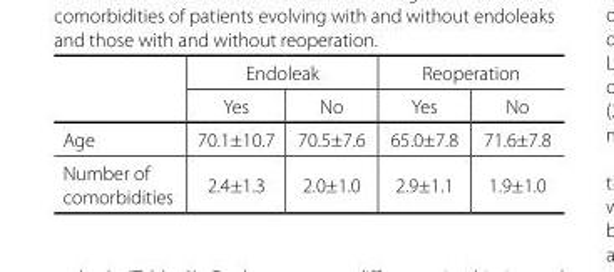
<table><thead><tr><td rowspan="2"></td><td colspan="2">Endoleak</td><td colspan="2">Reoperation</td></tr><tr><td>Yes</td><td>No</td><td>Yes</td><td>No</td></tr></thead><tbody><tr><td>Age</td><td>70.1±10.7</td><td>70.5±7.6</td><td>65.0±7.8</td><td>71.6±7.8</td></tr><tr><td>Number of comorbidities</td><td>2.4±1.3</td><td>2.0±1.0</td><td>2.9±1.1</td><td>1.9±1.0</td></tr></tbody></table>